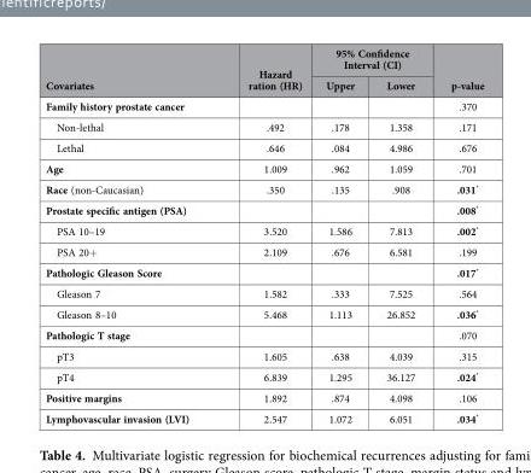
<table><thead><tr><td rowspan="2">Covariates</td><td rowspan="2">Hazard ration (HR)</td><td colspan="2">95% Confidence Interval (CI)</td><td rowspan="2">p-value</td></tr><tr><td>Upper</td><td>Lower</td></tr></thead><tbody><tr><td>Family history prostate cancer</td><td></td><td></td><td></td><td>.370</td></tr><tr><td>Non-lethal</td><td>.492</td><td>.178</td><td>1.358</td><td>.171</td></tr><tr><td>Lethal</td><td>.646</td><td>.084</td><td>4.986</td><td>.676</td></tr><tr><td>Age</td><td>1.009</td><td>.962</td><td>1.059</td><td>.701</td></tr><tr><td>Race (non-Caucasian)</td><td>.350</td><td>.135</td><td>.908</td><td>.031*</td></tr><tr><td>Prostate specific antigen (PSA)</td><td></td><td></td><td></td><td>.008*</td></tr><tr><td>PSA 10–19</td><td>3.520</td><td>1.586</td><td>7.813</td><td>.002*</td></tr><tr><td>PSA 20+</td><td>2.109</td><td>.676</td><td>6.581</td><td>.199</td></tr><tr><td>Pathologic Gleason Score</td><td></td><td></td><td></td><td>.017*</td></tr><tr><td>Gleason 7</td><td>1.582</td><td>.333</td><td>7.525</td><td>.564</td></tr><tr><td>Gleason 8–10</td><td>5.468</td><td>1.113</td><td>26.852</td><td>.036*</td></tr><tr><td>Pathologic T stage</td><td></td><td></td><td></td><td>.070</td></tr><tr><td>pT3</td><td>1.605</td><td>.638</td><td>4.039</td><td>.315</td></tr><tr><td>pT4</td><td>6.839</td><td>1.295</td><td>36.127</td><td>.024*</td></tr><tr><td>Positive margins</td><td>1.892</td><td>.874</td><td>4.098</td><td>.106</td></tr><tr><td>Lymphovascular invasion (LVI)</td><td>2.547</td><td>1.072</td><td>6.051</td><td>.034*</td></tr></tbody></table>